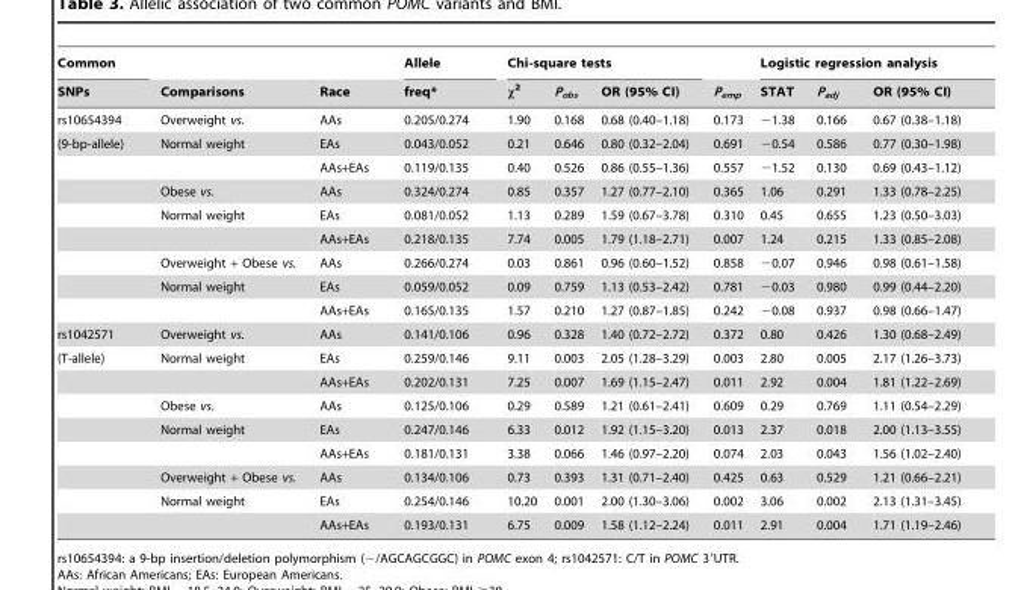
<table><thead><tr><td rowspan="2">Common SNPs</td><td rowspan="2">Comparisons</td><td rowspan="2">Race</td><td rowspan="2">Allele freq*</td><td colspan="3">Chi-square tests</td><td rowspan="2">P<sub>emp</sub></td><td colspan="3">Logistic regression analysis</td></tr><tr><td>χ<sup>2</sup></td><td>P<sub>obs</sub></td><td>OR (95% CI)</td><td>STAT</td><td>P<sub>adj</sub></td><td>OR (95% CI)</td></tr></thead><tbody><tr><td>rs10654394</td><td>Overweight vs.</td><td>AAs</td><td>0.205/0.274</td><td>1.90</td><td>0.168</td><td>0.68 (0.40–1.18)</td><td>0.173</td><td>−1.38</td><td>0.166</td><td>0.67 (0.38–1.18)</td></tr><tr><td rowspan="8">(9-bp-allele)</td><td>Normal weight</td><td>EAs</td><td>0.043/0.052</td><td>0.21</td><td>0.646</td><td>0.80 (0.32–2.04)</td><td>0.691</td><td>−0.54</td><td>0.586</td><td>0.77 (0.30–1.98)</td></tr><tr><td></td><td>AAs+EAs</td><td>0.119/0.135</td><td>0.40</td><td>0.526</td><td>0.86 (0.55–1.36)</td><td>0.557</td><td>−1.52</td><td>0.130</td><td>0.69 (0.43–1.12)</td></tr><tr><td>Obese vs.</td><td>AAs</td><td>0.324/0.274</td><td>0.85</td><td>0.357</td><td>1.27 (0.77–2.10)</td><td>0.365</td><td>1.06</td><td>0.291</td><td>1.33 (0.78–2.25)</td></tr><tr><td>Normal weight</td><td>EAs</td><td>0.081/0.052</td><td>1.13</td><td>0.289</td><td>1.59 (0.67–3.78)</td><td>0.310</td><td>0.45</td><td>0.655</td><td>1.23 (0.50–3.03)</td></tr><tr><td></td><td>AAs+EAs</td><td>0.218/0.135</td><td>7.74</td><td>0.005</td><td>1.79 (1.18–2.71)</td><td>0.007</td><td>1.24</td><td>0.215</td><td>1.33 (0.85–2.08)</td></tr><tr><td>Overweight + Obese vs.</td><td>AAs</td><td>0.266/0.274</td><td>0.03</td><td>0.861</td><td>0.96 (0.60–1.52)</td><td>0.858</td><td>−0.07</td><td>0.946</td><td>0.98 (0.61–1.58)</td></tr><tr><td>Normal weight</td><td>EAs</td><td>0.059/0.052</td><td>0.09</td><td>0.759</td><td>1.13 (0.53–2.42)</td><td>0.781</td><td>−0.03</td><td>0.980</td><td>0.99 (0.44–2.20)</td></tr><tr><td></td><td>AAs+EAs</td><td>0.165/0.135</td><td>1.57</td><td>0.210</td><td>1.27 (0.87–1.85)</td><td>0.242</td><td>−0.08</td><td>0.937</td><td>0.98 (0.66–1.47)</td></tr><tr><td>rs1042571</td><td>Overweight vs.</td><td>AAs</td><td>0.141/0.106</td><td>0.96</td><td>0.328</td><td>1.40 (0.72–2.72)</td><td>0.372</td><td>0.80</td><td>0.426</td><td>1.30 (0.68–2.49)</td></tr><tr><td rowspan="8">(T-allele)</td><td>Normal weight</td><td>EAs</td><td>0.259/0.146</td><td>9.11</td><td>0.003</td><td>2.05 (1.28–3.29)</td><td>0.003</td><td>2.80</td><td>0.005</td><td>2.17 (1.26–3.73)</td></tr><tr><td></td><td>AAs+EAs</td><td>0.202/0.131</td><td>7.25</td><td>0.007</td><td>1.69 (1.15–2.47)</td><td>0.011</td><td>2.92</td><td>0.004</td><td>1.81 (1.22–2.69)</td></tr><tr><td>Obese vs.</td><td>AAs</td><td>0.125/0.106</td><td>0.29</td><td>0.589</td><td>1.21 (0.61–2.41)</td><td>0.609</td><td>0.29</td><td>0.769</td><td>1.11 (0.54–2.29)</td></tr><tr><td>Normal weight</td><td>EAs</td><td>0.247/0.146</td><td>6.33</td><td>0.012</td><td>1.92 (1.15–3.20)</td><td>0.013</td><td>2.37</td><td>0.018</td><td>2.00 (1.13–3.55)</td></tr><tr><td></td><td>AAs+EAs</td><td>0.181/0.131</td><td>3.38</td><td>0.066</td><td>1.46 (0.97–2.20)</td><td>0.074</td><td>2.03</td><td>0.043</td><td>1.56 (1.02–2.40)</td></tr><tr><td>Overweight + Obese vs.</td><td>AAs</td><td>0.134/0.106</td><td>0.73</td><td>0.393</td><td>1.31 (0.71–2.40)</td><td>0.425</td><td>0.63</td><td>0.529</td><td>1.21 (0.66–2.21)</td></tr><tr><td>Normal weight</td><td>EAs</td><td>0.254/0.146</td><td>10.20</td><td>0.001</td><td>2.00 (1.30–3.06)</td><td>0.002</td><td>3.06</td><td>0.002</td><td>2.13 (1.31–3.45)</td></tr><tr><td></td><td>AAs+EAs</td><td>0.193/0.131</td><td>6.75</td><td>0.009</td><td>1.58 (1.12–2.24)</td><td>0.011</td><td>2.91</td><td>0.004</td><td>1.71 (1.19–2.46)</td></tr></tbody></table>